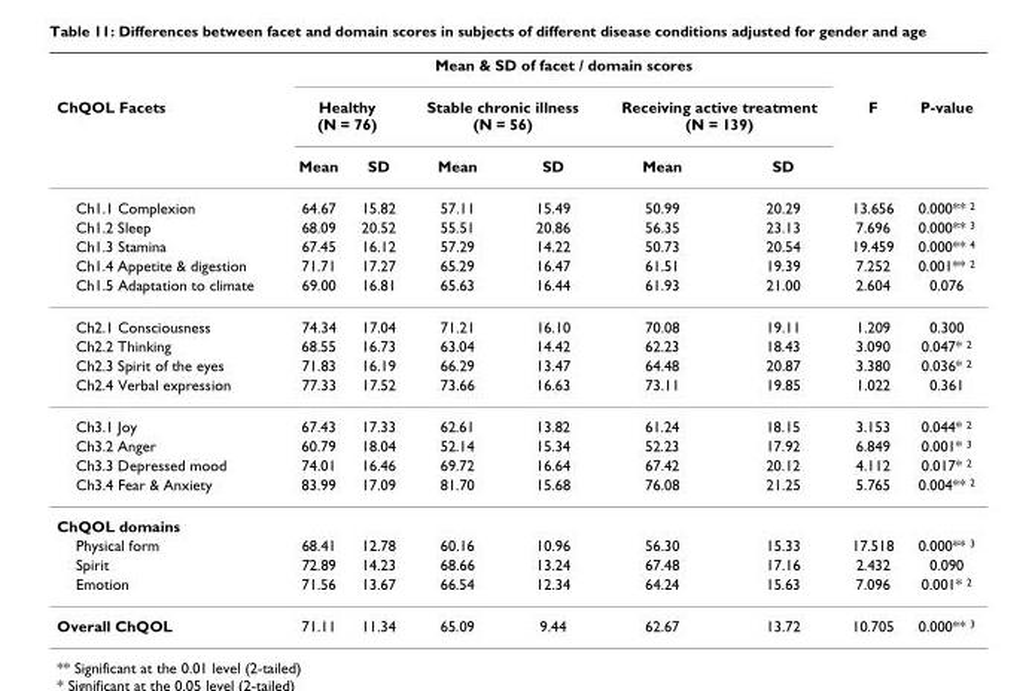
<table><thead><tr><td rowspan="3">ChQOL Facets</td><td colspan="6">Mean &amp; SD of facet / domain scores</td><td rowspan="3">F</td><td rowspan="3">P-value</td></tr><tr><td colspan="2">Healthy (N = 76)</td><td colspan="2">Stable chronic illness (N = 56)</td><td colspan="2">Receiving active treatment (N = 139)</td></tr><tr><td>Mean</td><td>SD</td><td>Mean</td><td>SD</td><td>Mean</td><td>SD</td></tr></thead><tbody><tr><td>Ch1.1 Complexion</td><td>64.67</td><td>15.82</td><td>57.11</td><td>15.49</td><td>50.99</td><td>20.29</td><td>13.656</td><td>0.000** <sup>2</sup></td></tr><tr><td>Ch1.2 Sleep</td><td>68.09</td><td>20.52</td><td>55.51</td><td>20.86</td><td>56.35</td><td>23.13</td><td>7.696</td><td>0.000** <sup>3</sup></td></tr><tr><td>Ch1.3 Stamina</td><td>67.45</td><td>16.12</td><td>57.29</td><td>14.22</td><td>50.73</td><td>20.54</td><td>19.459</td><td>0.000** <sup>4</sup></td></tr><tr><td>Ch1.4 Appetite &amp; digestion</td><td>71.71</td><td>17.27</td><td>65.29</td><td>16.47</td><td>61.51</td><td>19.39</td><td>7.252</td><td>0.001** <sup>2</sup></td></tr><tr><td>Ch1.5 Adaptation to climate</td><td>69.00</td><td>16.81</td><td>65.63</td><td>16.44</td><td>61.93</td><td>21.00</td><td>2.604</td><td>0.076</td></tr><tr><td>Ch2.1 Consciousness</td><td>74.34</td><td>17.04</td><td>71.21</td><td>16.10</td><td>70.08</td><td>19.11</td><td>1.209</td><td>0.300</td></tr><tr><td>Ch2.2 Thinking</td><td>68.55</td><td>16.73</td><td>63.04</td><td>14.42</td><td>62.23</td><td>18.43</td><td>3.090</td><td>0.047* <sup>2</sup></td></tr><tr><td>Ch2.3 Spirit of the eyes</td><td>71.83</td><td>16.19</td><td>66.29</td><td>13.47</td><td>64.48</td><td>20.87</td><td>3.380</td><td>0.036* <sup>2</sup></td></tr><tr><td>Ch2.4 Verbal expression</td><td>77.33</td><td>17.52</td><td>73.66</td><td>16.63</td><td>73.11</td><td>19.85</td><td>1.022</td><td>0.361</td></tr><tr><td>Ch3.1 Joy</td><td>67.43</td><td>17.33</td><td>62.61</td><td>13.82</td><td>61.24</td><td>18.15</td><td>3.153</td><td>0.044* <sup>2</sup></td></tr><tr><td>Ch3.2 Anger</td><td>60.79</td><td>18.04</td><td>52.14</td><td>15.34</td><td>52.23</td><td>17.92</td><td>6.849</td><td>0.001* <sup>3</sup></td></tr><tr><td>Ch3.3 Depressed mood</td><td>74.01</td><td>16.46</td><td>69.72</td><td>16.64</td><td>67.42</td><td>20.12</td><td>4.112</td><td>0.017* <sup>2</sup></td></tr><tr><td>Ch3.4 Fear &amp; Anxiety</td><td>83.99</td><td>17.09</td><td>81.70</td><td>15.68</td><td>76.08</td><td>21.25</td><td>5.765</td><td>0.004** <sup>2</sup></td></tr><tr><td colspan="9">ChQOL domains</td></tr><tr><td>Physical form</td><td>68.41</td><td>12.78</td><td>60.16</td><td>10.96</td><td>56.30</td><td>15.33</td><td>17.518</td><td>0.000** <sup>3</sup></td></tr><tr><td>Spirit</td><td>72.89</td><td>14.23</td><td>68.66</td><td>13.24</td><td>67.48</td><td>17.16</td><td>2.432</td><td>0.090</td></tr><tr><td>Emotion</td><td>71.56</td><td>13.67</td><td>66.54</td><td>12.34</td><td>64.24</td><td>15.63</td><td>7.096</td><td>0.001* <sup>2</sup></td></tr><tr><td>Overall ChQOL</td><td>71.11</td><td>11.34</td><td>65.09</td><td>9.44</td><td>62.67</td><td>13.72</td><td>10.705</td><td>0.000** <sup>3</sup></td></tr></tbody></table>